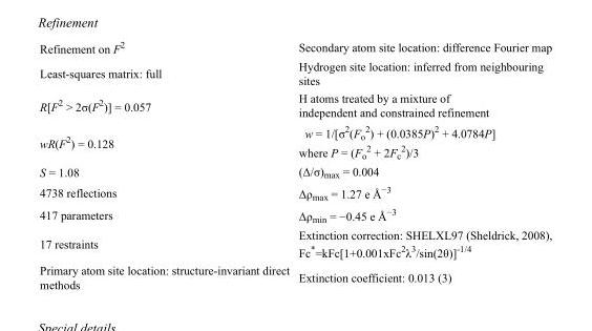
<table><tbody><tr><td>Refinement on F<sup>2</sup></td><td>Secondary atom site location: difference Fourier map</td></tr><tr><td>Least-squares matrix: full</td><td>Hydrogen site location: inferred from neighbouring sites</td></tr><tr><td>R[F<sup>2</sup> &gt; 2σ(F<sup>2</sup>)] = 0.057</td><td>H atoms treated by a mixture of independent and constrained refinement</td></tr><tr><td>wR(F<sup>2</sup>) = 0.128</td><td>w = 1/[σ<sup>2</sup>(F<sub>o</sub> <sup>2</sup>) + (0.0385P)<sup>2</sup> + 4.0784P] where P = (F<sub>o</sub> <sup>2</sup> + 2F<sub>c</sub> <sup>2</sup>)/3</td></tr><tr><td>S = 1.08</td><td>(Δ/σ)<sub>max</sub> = 0.004</td></tr><tr><td>4738 reflections</td><td>Δρ<sub>max</sub> = 1.27 e Å<sup>−3</sup></td></tr><tr><td>417 parameters</td><td>Δρ<sub>min</sub> = −0.45 e Å<sup>−3</sup></td></tr><tr><td>17 restraints</td><td>Extinction correction: SHELXL97 (Sheldrick, 2008), Fc*=kFc[1+0.001xFc<sup>2</sup>λ<sup>3</sup>/sin(2θ)]<sup>-1/4</sup></td></tr><tr><td>Primary atom site location: structure-invariant direct methods</td><td>Extinction coefficient: 0.013 (3)</td></tr></tbody></table>